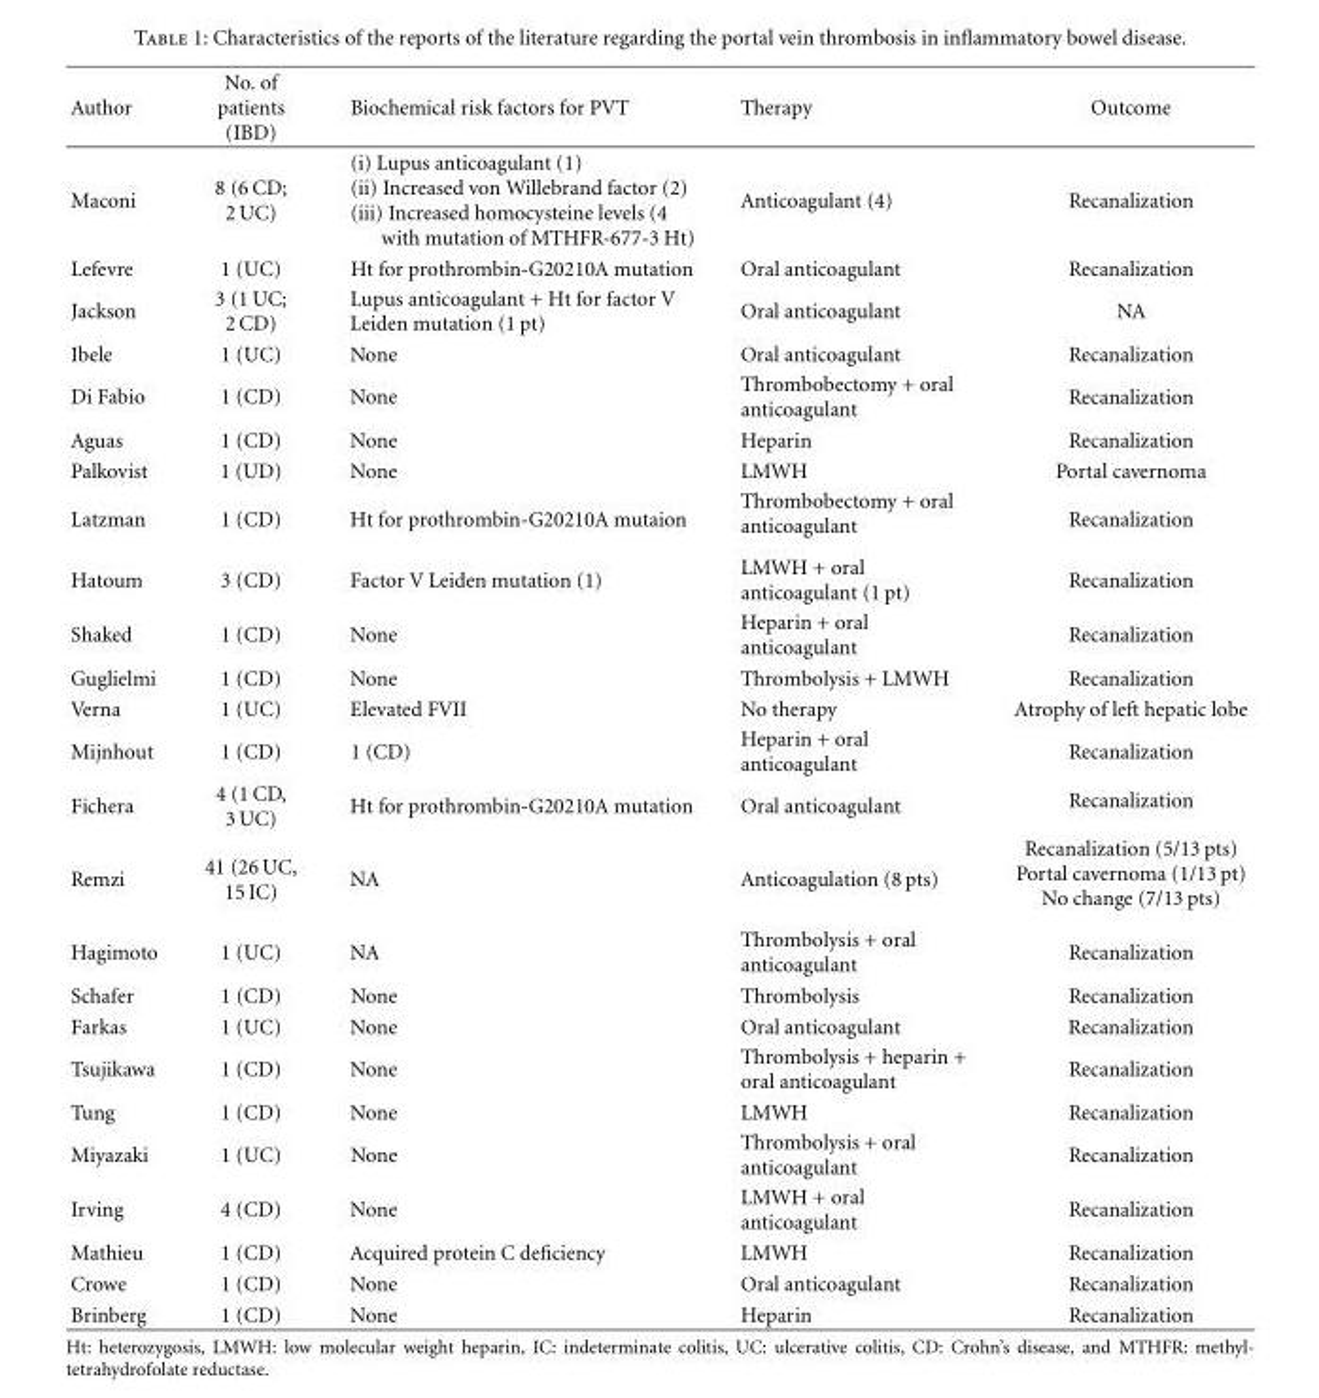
<table><thead><tr><td>Author</td><td>No. of patients (IBD)</td><td>Biochemical risk factors for PVT</td><td>Therapy</td><td>Outcome</td></tr></thead><tbody><tr><td>Maconi</td><td>8 (6 CD; 2 UC)</td><td>(i) Lupus anticoagulant (1) (ii) Increased von Willebrand factor (2) (iii) Increased homocysteine levels (4 with mutation of MTHFR-677-3 Ht)</td><td>Anticoagulant (4)</td><td>Recanalization</td></tr><tr><td>Lefevre</td><td>1 (UC)</td><td>Ht for prothrombin-G20210A mutation</td><td>Oral anticoagulant</td><td>Recanalization</td></tr><tr><td>Jackson</td><td>3 (1 UC; 2 CD)</td><td>Lupus anticoagulant + Ht for factor V Leiden mutation (1 pt)</td><td>Oral anticoagulant</td><td>NA</td></tr><tr><td>Ibele</td><td>1 (UC)</td><td>None</td><td>Oral anticoagulant</td><td>Recanalization</td></tr><tr><td>Di Fabio</td><td>1 (CD)</td><td>None</td><td>Thrombobectomy + oral anticoagulant</td><td>Recanalization</td></tr><tr><td>Aguas</td><td>1 (CD)</td><td>None</td><td>Heparin</td><td>Recanalization</td></tr><tr><td>Palkovist</td><td>1 (UD)</td><td>None</td><td>LMWH</td><td>Portal cavernoma</td></tr><tr><td>Latzman</td><td>1 (CD)</td><td>Ht for prothrombin-G20210A mutaion</td><td>Thrombobectomy + oral anticoagulant</td><td>Recanalization</td></tr><tr><td>Hatoum</td><td>3 (CD)</td><td>Factor V Leiden mutation (1)</td><td>LMWH + oral anticoagulant (1 pt)</td><td>Recanalization</td></tr><tr><td>Shaked</td><td>1 (CD)</td><td>None</td><td>Heparin + oral anticoagulant</td><td>Recanalization</td></tr><tr><td>Guglielmi</td><td>1 (CD)</td><td>None</td><td>Thrombolysis + LMWH</td><td>Recanalization</td></tr><tr><td>Verna</td><td>1 (UC)</td><td>Elevated FVII</td><td>No therapy</td><td>Atrophy of left hepatic lobe</td></tr><tr><td>Mijnhout</td><td>1 (CD)</td><td>1 (CD)</td><td>Heparin + oral anticoagulant</td><td>Recanalization</td></tr><tr><td>Fichera</td><td>4 (1 CD, 3 UC)</td><td>Ht for prothrombin-G20210A mutation</td><td>Oral anticoagulant</td><td>Recanalization</td></tr><tr><td>Remzi</td><td>41 (26 UC, 15 IC)</td><td>NA</td><td>Anticoagulation (8 pts)</td><td>Recanalization (5/13 pts) Portal cavernoma (1/13 pt) No change (7/13 pts)</td></tr><tr><td>Hagimoto</td><td>1 (UC)</td><td>NA</td><td>Thrombolysis + oral anticoagulant</td><td>Recanalization</td></tr><tr><td>Schafer</td><td>1 (CD)</td><td>None</td><td>Thrombolysis</td><td>Recanalization</td></tr><tr><td>Farkas</td><td>1 (UC)</td><td>None</td><td>Oral anticoagulant</td><td>Recanalization</td></tr><tr><td>Tsujikawa</td><td>1 (CD)</td><td>None</td><td>Thrombolysis + heparin + oral anticoagulant</td><td>Recanalization</td></tr><tr><td>Tung</td><td>1 (CD)</td><td>None</td><td>LMWH</td><td>Recanalization</td></tr><tr><td>Miyazaki</td><td>1 (UC)</td><td>None</td><td>Thrombolysis + oral anticoagulant</td><td>Recanalization</td></tr><tr><td>Irving</td><td>4 (CD)</td><td>None</td><td>LMWH + oral anticoagulant</td><td>Recanalization</td></tr><tr><td>Mathieu</td><td>1 (CD)</td><td>Acquired protein C deficiency</td><td>LMWH</td><td>Recanalization</td></tr><tr><td>Crowe</td><td>1 (CD)</td><td>None</td><td>Oral anticoagulant</td><td>Recanalization</td></tr><tr><td>Brinberg</td><td>1 (CD)</td><td>None</td><td>Heparin</td><td>Recanalization</td></tr></tbody></table>